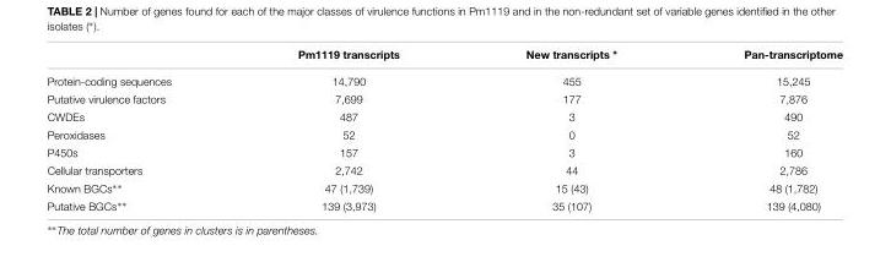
<table><thead><tr><td></td><td>Pm1119 transcripts</td><td>New transcripts ∗</td><td>Pan-transcriptome</td></tr></thead><tbody><tr><td>Protein-coding sequences</td><td>14,790</td><td>455</td><td>15,245</td></tr><tr><td>Putative virulence factors</td><td>7,699</td><td>177</td><td>7,876</td></tr><tr><td>CWDEs</td><td>487</td><td>3</td><td>490</td></tr><tr><td>Peroxidases</td><td>52</td><td>0</td><td>52</td></tr><tr><td>P450s</td><td>157</td><td>3</td><td>160</td></tr><tr><td>Cellular transporters</td><td>2,742</td><td>44</td><td>2,786</td></tr><tr><td>Known BGCs∗∗</td><td>47 (1,739)</td><td>15 (43)</td><td>48 (1,782)</td></tr><tr><td>Putative BGCs∗∗</td><td>139 (3,973)</td><td>35 (107)</td><td>139 (4,080)</td></tr></tbody></table>